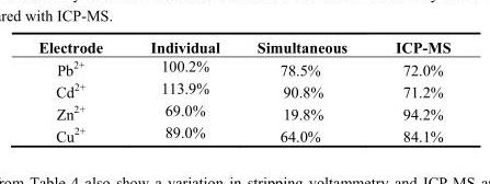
<table><thead><tr><td>Electrode</td><td>Individual</td><td>Simultaneous</td><td>ICP-MS</td></tr></thead><tbody><tr><td>Pb<sup>2+</sup></td><td>100.2%</td><td>78.5%</td><td>72.0%</td></tr><tr><td>Cd<sup>2+</sup></td><td>113.9%</td><td>90.8%</td><td>71.2%</td></tr><tr><td>Zn<sup>2+</sup></td><td>69.0%</td><td>19.8%</td><td>94.2%</td></tr><tr><td>Cu<sup>2+</sup></td><td>89.0%</td><td>64.0%</td><td>84.1%</td></tr></tbody></table>